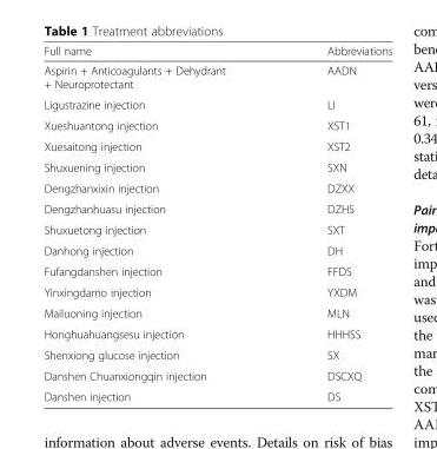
<table><thead><tr><td>Full name</td><td>Abbreviations</td></tr></thead><tbody><tr><td>Aspirin + Anticoagulants + Dehydrant + Neuroprotectant</td><td>AADN</td></tr><tr><td>Ligustrazine injection</td><td>LI</td></tr><tr><td>Xueshuantong injection</td><td>XST1</td></tr><tr><td>Xuesaitong injection</td><td>XST2</td></tr><tr><td>Shuxuening injection</td><td>SXN</td></tr><tr><td>Dengzhanxixin injection</td><td>DZXX</td></tr><tr><td>Dengzhanhuasu injection</td><td>DZHS</td></tr><tr><td>Shuxuetong injection</td><td>SXT</td></tr><tr><td>Danhong injection</td><td>DH</td></tr><tr><td>Fufangdanshen injection</td><td>FFDS</td></tr><tr><td>Yinxingdamo injection</td><td>YXDM</td></tr><tr><td>Mailuoning injection</td><td>MLN</td></tr><tr><td>Honghuahuangsesu injection</td><td>HHHSS</td></tr><tr><td>Shenxiong glucose injection</td><td>SX</td></tr><tr><td>Danshen Chuanxiongqin injection</td><td>DSCXQ</td></tr><tr><td>Danshen injection</td><td>DS</td></tr></tbody></table>